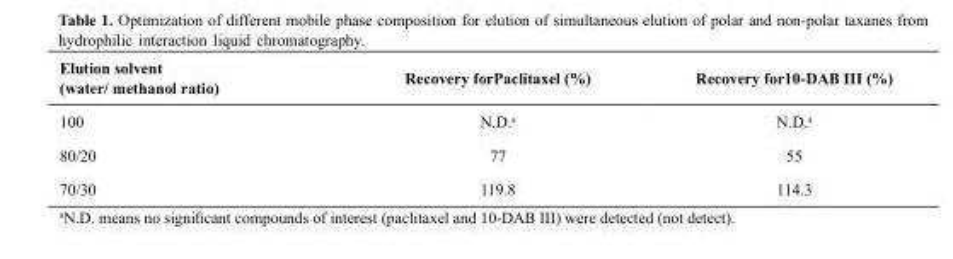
<table><thead><tr><td>Elution solvent (water/ methanol ratio)</td><td>Recovery forPaclitaxel (%)</td><td>Recovery for10-DAB III (%)</td></tr></thead><tbody><tr><td>100</td><td>N.D.<sup>a</sup></td><td>N.D.<sup>a</sup></td></tr><tr><td>80/20</td><td>77</td><td>55</td></tr><tr><td>70/30</td><td>119.8</td><td>114.3</td></tr></tbody></table>